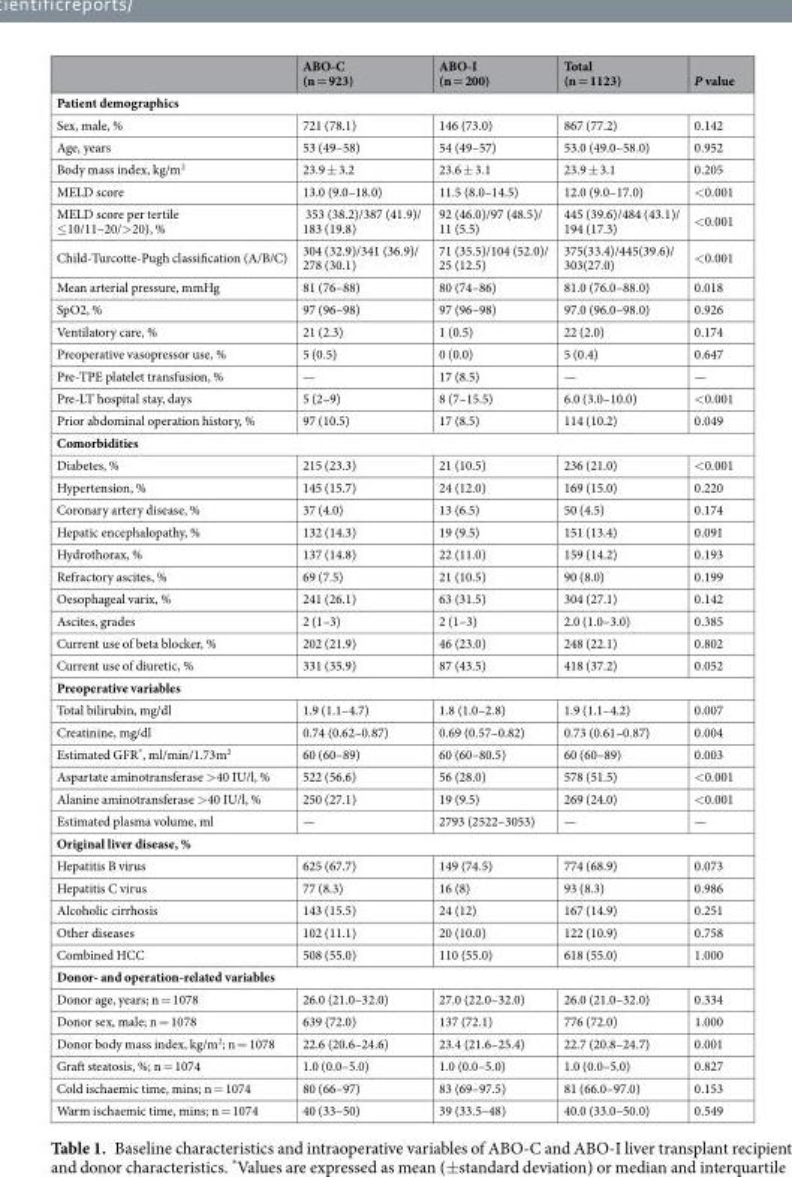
<table><thead><tr><td></td><td>ABO-C (n = 923)</td><td>ABO-I (n = 200)</td><td>Total (n = 1123)</td><td>P value</td></tr></thead><tbody><tr><td colspan="5">Patient demographics</td></tr><tr><td>Sex, male, %</td><td>721 (78.1)</td><td>146 (73.0)</td><td>867 (77.2)</td><td>0.142</td></tr><tr><td>Age, years</td><td>53 (49–58)</td><td>54 (49–57)</td><td>53.0 (49.0–58.0)</td><td>0.952</td></tr><tr><td>Body mass index, kg/m<sup>2</sup></td><td>23.9 ± 3.2</td><td>23.6 ± 3.1</td><td>23.9 ± 3.1</td><td>0.205</td></tr><tr><td>MELD score</td><td>13.0 (9.0–18.0)</td><td>11.5 (8.0–14.5)</td><td>12.0 (9.0–17.0)</td><td>&lt;0.001</td></tr><tr><td>MELD score per tertile ≤10/11–20/&gt;20), %</td><td>353 (38.2)/387 (41.9)/ 183 (19.8)</td><td>92 (46.0)/97 (48.5)/ 11 (5.5)</td><td>445 (39.6)/484 (43.1)/ 194 (17.3)</td><td>&lt;0.001</td></tr><tr><td>Child-Turcotte-Pugh classification (A/B/C)</td><td>304 (32.9)/341 (36.9)/ 278 (30.1)</td><td>71 (35.5)/104 (52.0)/ 25 (12.5)</td><td>375(33.4)/445(39.6)/ 303(27.0)</td><td>&lt;0.001</td></tr><tr><td>Mean arterial pressure, mmHg</td><td>81 (76–88)</td><td>80 (74–86)</td><td>81.0 (76.0–88.0)</td><td>0.018</td></tr><tr><td>SpO2, %</td><td>97 (96–98)</td><td>97 (96–98)</td><td>97.0 (96.0–98.0)</td><td>0.926</td></tr><tr><td>Ventilatory care, %</td><td>21 (2.3)</td><td>1 (0.5)</td><td>22 (2.0)</td><td>0.174</td></tr><tr><td>Preoperative vasopressor use, %</td><td>5 (0.5)</td><td>0 (0.0)</td><td>5 (0.4)</td><td>0.647</td></tr><tr><td>Pre-TPE platelet transfusion, %</td><td>—</td><td>17 (8.5)</td><td>—</td><td>—</td></tr><tr><td>Pre-LT hospital stay, days</td><td>5 (2–9)</td><td>8 (7–15.5)</td><td>6.0 (3.0–10.0)</td><td>&lt;0.001</td></tr><tr><td>Prior abdominal operation history, %</td><td>97 (10.5)</td><td>17 (8.5)</td><td>114 (10.2)</td><td>0.049</td></tr><tr><td colspan="5">Comorbidities</td></tr><tr><td>Diabetes, %</td><td>215 (23.3)</td><td>21 (10.5)</td><td>236 (21.0)</td><td>&lt;0.001</td></tr><tr><td>Hypertension, %</td><td>145 (15.7)</td><td>24 (12.0)</td><td>169 (15.0)</td><td>0.220</td></tr><tr><td>Coronary artery disease, %</td><td>37 (4.0)</td><td>13 (6.5)</td><td>50 (4.5)</td><td>0.174</td></tr><tr><td>Hepatic encephalopathy, %</td><td>132 (14.3)</td><td>19 (9.5)</td><td>151 (13.4)</td><td>0.091</td></tr><tr><td>Hydrothorax, %</td><td>137 (14.8)</td><td>22 (11.0)</td><td>159 (14.2)</td><td>0.193</td></tr><tr><td>Refractory ascites, %</td><td>69 (7.5)</td><td>21 (10.5)</td><td>90 (8.0)</td><td>0.199</td></tr><tr><td>Oesophageal varix, %</td><td>241 (26.1)</td><td>63 (31.5)</td><td>304 (27.1)</td><td>0.142</td></tr><tr><td>Ascites, grades</td><td>2 (1–3)</td><td>2 (1–3)</td><td>2.0 (1.0–3.0)</td><td>0.385</td></tr><tr><td>Current use of beta blocker, %</td><td>202 (21.9)</td><td>46 (23.0)</td><td>248 (22.1)</td><td>0.802</td></tr><tr><td>Current use of diuretic, %</td><td>331 (35.9)</td><td>87 (43.5)</td><td>418 (37.2)</td><td>0.052</td></tr><tr><td colspan="5">Preoperative variables</td></tr><tr><td>Total bilirubin, mg/dl</td><td>1.9 (1.1–4.7)</td><td>1.8 (1.0–2.8)</td><td>1.9 (1.1–4.2)</td><td>0.007</td></tr><tr><td>Creatinine, mg/dl</td><td>0.74 (0.62–0.87)</td><td>0.69 (0.57–0.82)</td><td>0.73 (0.61–0.87)</td><td>0.004</td></tr><tr><td>Estimated GFR*, ml/min/1.73m<sup>2</sup></td><td>60 (60–89)</td><td>60 (60–80.5)</td><td>60 (60–89)</td><td>0.003</td></tr><tr><td>Aspartate aminotransferase &gt;40 IU/l, %</td><td>522 (56.6)</td><td>56 (28.0)</td><td>578 (51.5)</td><td>&lt;0.001</td></tr><tr><td>Alanine aminotransferase &gt;40 IU/l, %</td><td>250 (27.1)</td><td>19 (9.5)</td><td>269 (24.0)</td><td>&lt;0.001</td></tr><tr><td>Estimated plasma volume, ml</td><td>—</td><td>2793 (2522–3053)</td><td>—</td><td>—</td></tr><tr><td colspan="5">Original liver disease, %</td></tr><tr><td>Hepatitis B virus</td><td>625 (67.7)</td><td>149 (74.5)</td><td>774 (68.9)</td><td>0.073</td></tr><tr><td>Hepatitis C virus</td><td>77 (8.3)</td><td>16 (8)</td><td>93 (8.3)</td><td>0.986</td></tr><tr><td>Alcoholic cirrhosis</td><td>143 (15.5)</td><td>24 (12)</td><td>167 (14.9)</td><td>0.251</td></tr><tr><td>Other diseases</td><td>102 (11.1)</td><td>20 (10.0)</td><td>122 (10.9)</td><td>0.758</td></tr><tr><td>Combined HCC</td><td>508 (55.0)</td><td>110 (55.0)</td><td>618 (55.0)</td><td>1.000</td></tr><tr><td colspan="5">Donor- and operation-related variables</td></tr><tr><td>Donor age, years; n = 1078</td><td>26.0 (21.0–32.0)</td><td>27.0 (22.0–32.0)</td><td>26.0 (21.0–32.0)</td><td>0.334</td></tr><tr><td>Donor sex, male; n = 1078</td><td>639 (72.0)</td><td>137 (72.1)</td><td>776 (72.0)</td><td>1.000</td></tr><tr><td>Donor body mass index, kg/m<sup>2</sup>; n = 1078</td><td>22.6 (20.6–24.6)</td><td>23.4 (21.6–25.4)</td><td>22.7 (20.8–24.7)</td><td>0.001</td></tr><tr><td>Graft steatosis, %; n = 1074</td><td>1.0 (0.0–5.0)</td><td>1.0 (0.0–5.0)</td><td>1.0 (0.0–5.0)</td><td>0.827</td></tr><tr><td>Cold ischaemic time, mins; n = 1074</td><td>80 (66–97)</td><td>83 (69–97.5)</td><td>81 (66.0–97.0)</td><td>0.153</td></tr><tr><td>Warm ischaemic time, mins; n = 1074</td><td>40 (33–50)</td><td>39 (33.5–48)</td><td>40.0 (33.0–50.0)</td><td>0.549</td></tr></tbody></table>